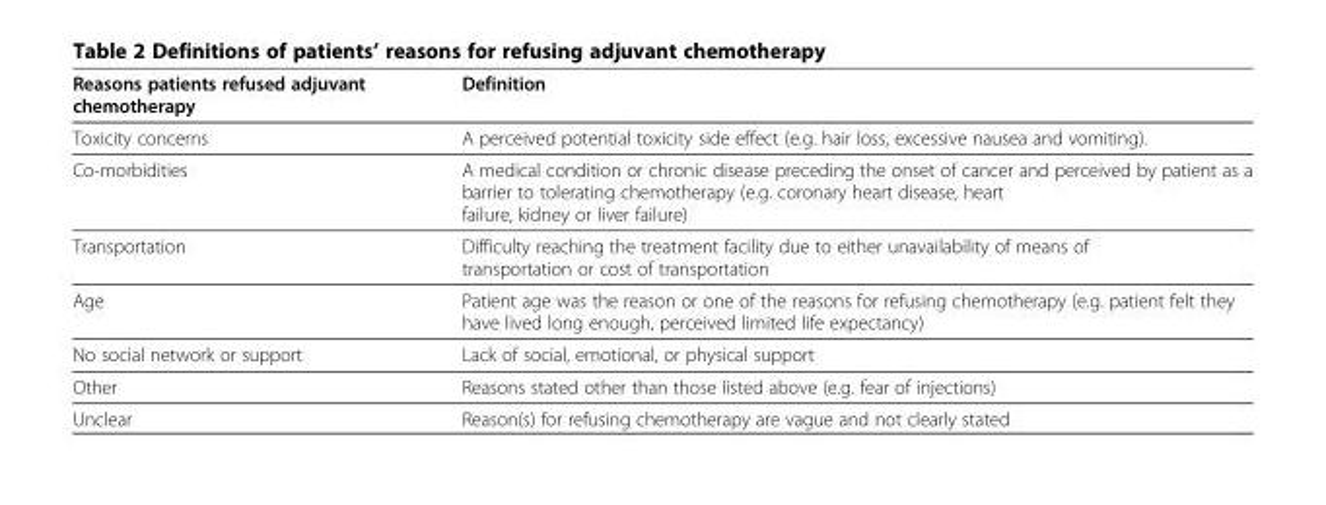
<table><thead><tr><td>Reasons patients refused adjuvant chemotherapy</td><td>Definition</td></tr></thead><tbody><tr><td>Toxicity concerns</td><td>A perceived potential toxicity side effect (e.g. hair loss, excessive nausea and vomiting).</td></tr><tr><td>Co-morbidities</td><td>A medical condition or chronic disease preceding the onset of cancer and perceived by patient as a barrier to tolerating chemotherapy (e.g. coronary heart disease, heart failure, kidney or liver failure)</td></tr><tr><td>Transportation</td><td>Difficulty reaching the treatment facility due to either unavailability of means of transportation or cost of transportation</td></tr><tr><td>Age</td><td>Patient age was the reason or one of the reasons for refusing chemotherapy (e.g. patient felt they have lived long enough, perceived limited life expectancy)</td></tr><tr><td>No social network or support</td><td>Lack of social, emotional, or physical support</td></tr><tr><td>Other</td><td>Reasons stated other than those listed above (e.g. fear of injections)</td></tr><tr><td>Unclear</td><td>Reason(s) for refusing chemotherapy are vague and not clearly stated</td></tr></tbody></table>